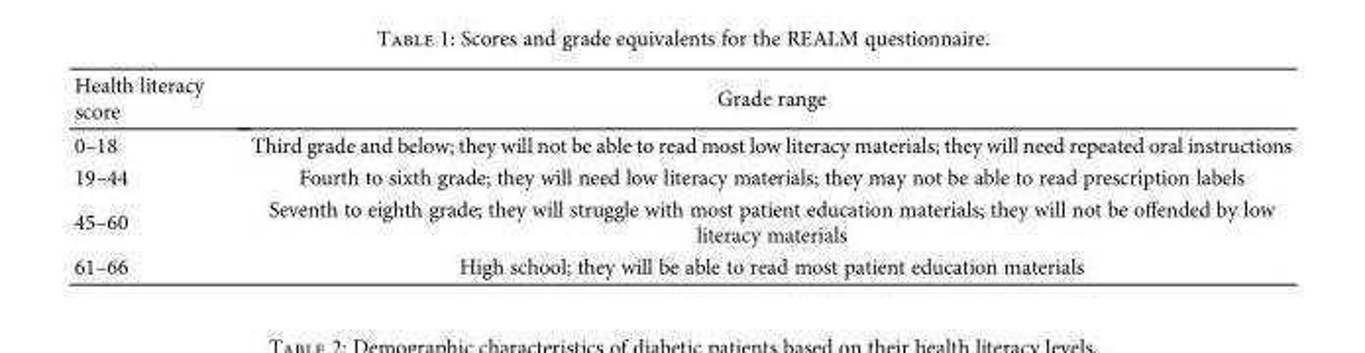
<table><thead><tr><td>Health literacy score</td><td>Grade range</td></tr></thead><tbody><tr><td>0–18</td><td>Third grade and below; they will not be able to read most low literacy materials; they will need repeated oral instructions</td></tr><tr><td>19–44</td><td>Fourth to sixth grade; they will need low literacy materials; they may not be able to read prescription labels</td></tr><tr><td>45–60</td><td>Seventh to eighth grade; they will struggle with most patient education materials; they will not be offended by low literacy materials</td></tr><tr><td>61–66</td><td>High school; they will be able to read most patient education materials</td></tr></tbody></table>